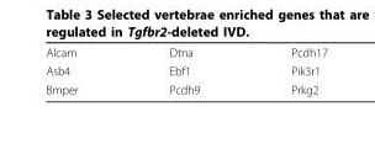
<table><tbody><tr><td>Alcam</td><td>Dtna</td><td>Pcdh17</td></tr><tr><td>Asb4</td><td>Ebf1</td><td>Pik3r1</td></tr><tr><td>Bmper</td><td>Pcdh9</td><td>Prkg2</td></tr></tbody></table>